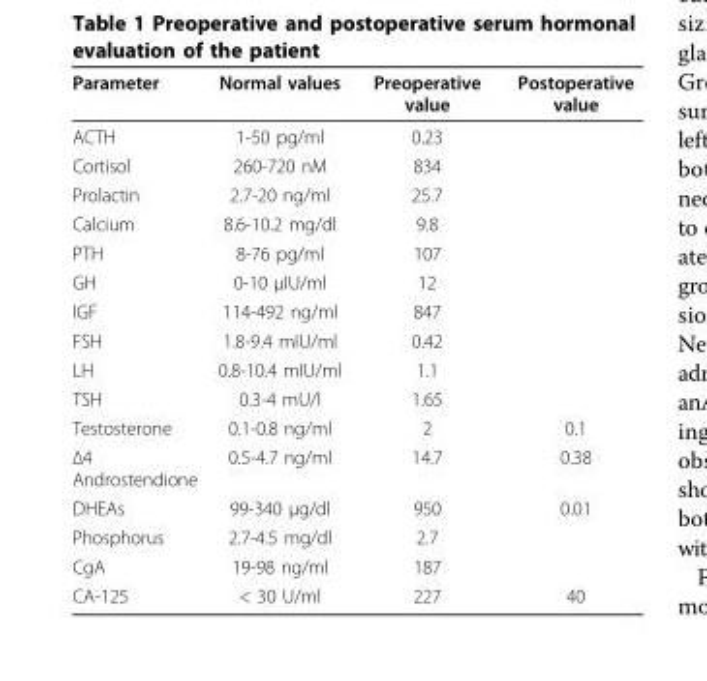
<table><thead><tr><td>Parameter</td><td>Normal values</td><td>Preoperative value</td><td>Postoperative value</td></tr></thead><tbody><tr><td>ACTH</td><td>1-50 pg/ml</td><td>0.23</td><td></td></tr><tr><td>Cortisol</td><td>260-720 nM</td><td>834</td><td></td></tr><tr><td>Prolactin</td><td>2.7-20 ng/ml</td><td>25.7</td><td></td></tr><tr><td>Calcium</td><td>8.6-10.2 mg/dl</td><td>9.8</td><td></td></tr><tr><td>PTH</td><td>8-76 pg/ml</td><td>107</td><td></td></tr><tr><td>GH</td><td>0-10 μIU/ml</td><td>12</td><td></td></tr><tr><td>IGF</td><td>114-492 ng/ml</td><td>847</td><td></td></tr><tr><td>FSH</td><td>1.8-9.4 mIU/ml</td><td>0.42</td><td></td></tr><tr><td>LH</td><td>0.8-10.4 mIU/ml</td><td>1.1</td><td></td></tr><tr><td>TSH</td><td>0.3-4 mU/l</td><td>1.65</td><td></td></tr><tr><td>Testosterone</td><td>0.1-0.8 ng/ml</td><td>2</td><td>0.1</td></tr><tr><td>Δ4 Androstendione</td><td>0.5-4.7 ng/ml</td><td>14.7</td><td>0.38</td></tr><tr><td>DHEAs</td><td>99-340 μg/dl</td><td>950</td><td>0.01</td></tr><tr><td>Phosphorus</td><td>2.7-4.5 mg/dl</td><td>2.7</td><td></td></tr><tr><td>CgA</td><td>19-98 ng/ml</td><td>187</td><td></td></tr><tr><td>CA-125</td><td>&lt; 30 U/ml</td><td>227</td><td>40</td></tr></tbody></table>